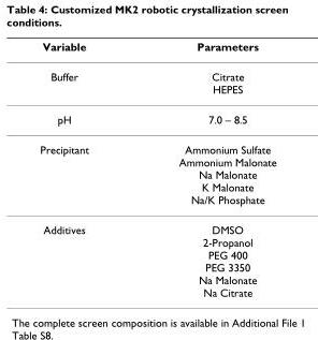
<table><thead><tr><td>Variable</td><td>Parameters</td></tr></thead><tbody><tr><td>Buffer</td><td>Citrate HEPES</td></tr><tr><td>pH</td><td>7.0 – 8.5</td></tr><tr><td>Precipitant</td><td>Ammonium Sulfate Ammonium Malonate Na Malonate K Malonate Na/K Phosphate</td></tr><tr><td>Additives</td><td>DMSO 2-Propanol PEG 400 PEG 3350 Na Malonate Na Citrate</td></tr></tbody></table>